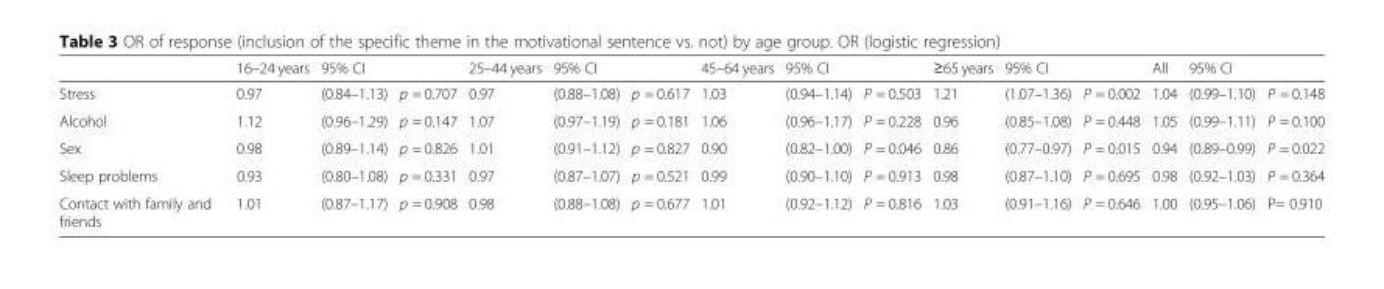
<table><thead><tr><td></td><td>16–24 years</td><td>95% CI</td><td></td><td>25–44 years</td><td>95% CI</td><td></td><td>45–64 years</td><td>95% CI</td><td></td><td>≥65 years</td><td>95% CI</td><td></td><td>All</td><td>95% CI</td><td></td></tr></thead><tbody><tr><td>Stress</td><td>0.97</td><td>(0.84–1.13)</td><td>p = 0.707</td><td>0.97</td><td>(0.88–1.08)</td><td>p = 0.617</td><td>1.03</td><td>(0.94–1.14)</td><td>P = 0.503</td><td>1.21</td><td>(1.07–1.36)</td><td>P = 0.002</td><td>1.04</td><td>(0.99–1.10)</td><td>P = 0.148</td></tr><tr><td>Alcohol</td><td>1.12</td><td>(0.96–1.29)</td><td>p = 0.147</td><td>1.07</td><td>(0.97–1.19)</td><td>p = 0.181</td><td>1.06</td><td>(0.96–1.17)</td><td>P = 0.228</td><td>0.96</td><td>(0.85–1.08)</td><td>P = 0.448</td><td>1.05</td><td>(0.99–1.11)</td><td>P = 0.100</td></tr><tr><td>Sex</td><td>0.98</td><td>(0.89–1.14)</td><td>p = 0.826</td><td>1.01</td><td>(0.91–1.12)</td><td>p = 0.827</td><td>0.90</td><td>(0.82–1.00)</td><td>P = 0.046</td><td>0.86</td><td>(0.77–0.97)</td><td>P = 0.015</td><td>0.94</td><td>(0.89–0.99)</td><td>P = 0.022</td></tr><tr><td>Sleep problems</td><td>0.93</td><td>(0.80–1.08)</td><td>p = 0.331</td><td>0.97</td><td>(0.87–1.07)</td><td>p = 0.521</td><td>0.99</td><td>(0.90–1.10)</td><td>P = 0.913</td><td>0.98</td><td>(0.87–1.10)</td><td>P = 0.695</td><td>0.98</td><td>(0.92–1.03)</td><td>P = 0.364</td></tr><tr><td>Contact with family and friends</td><td>1.01</td><td>(0.87–1.17)</td><td>p = 0.908</td><td>0.98</td><td>(0.88–1.08)</td><td>p = 0.677</td><td>1.01</td><td>(0.92–1.12)</td><td>P = 0.816</td><td>1.03</td><td>(0.91–1.16)</td><td>P = 0.646</td><td>1.00</td><td>(0.95–1.06)</td><td>P= 0.910</td></tr></tbody></table>